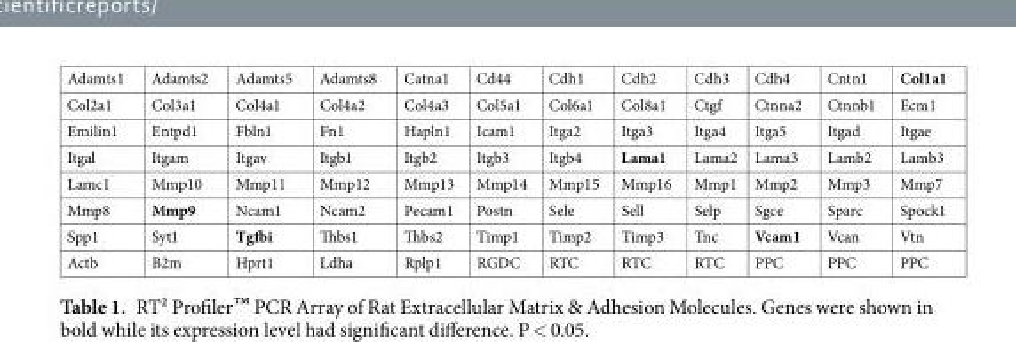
<table><tbody><tr><td>Adamts1</td><td>Adamts2</td><td>Adamts5</td><td>Adamts8</td><td>Catna1</td><td>Cd44</td><td>Cdh1</td><td>Cdh2</td><td>Cdh3</td><td>Cdh4</td><td>Cntn1</td><td>Col1a1</td></tr><tr><td>Col2a1</td><td>Col3a1</td><td>Col4a1</td><td>Col4a2</td><td>Col4a3</td><td>Col5a1</td><td>Col6a1</td><td>Col8a1</td><td>Ctgf</td><td>Ctnna2</td><td>Ctnnb1</td><td>Ecm1</td></tr><tr><td>Emilin1</td><td>Entpd1</td><td>Fbln1</td><td>Fn1</td><td>Hapln1</td><td>Icam1</td><td>Itga2</td><td>Itga3</td><td>Itga4</td><td>Itga5</td><td>Itgad</td><td>Itgae</td></tr><tr><td>Itgal</td><td>Itgam</td><td>Itgav</td><td>Itgb1</td><td>Itgb2</td><td>Itgb3</td><td>Itgb4</td><td>Lama1</td><td>Lama2</td><td>Lama3</td><td>Lamb2</td><td>Lamb3</td></tr><tr><td>Lamc1</td><td>Mmp10</td><td>Mmp11</td><td>Mmp12</td><td>Mmp13</td><td>Mmp14</td><td>Mmp15</td><td>Mmp16</td><td>Mmp1</td><td>Mmp2</td><td>Mmp3</td><td>Mmp7</td></tr><tr><td>Mmp8</td><td>Mmp9</td><td>Ncam1</td><td>Ncam2</td><td>Pecam1</td><td>Postn</td><td>Sele</td><td>Sell</td><td>Selp</td><td>Sgce</td><td>Sparc</td><td>Spock1</td></tr><tr><td>Spp1</td><td>Syt1</td><td>Tgfbi</td><td>Thbs1</td><td>Thbs2</td><td>Timp1</td><td>Timp2</td><td>Timp3</td><td>Tnc</td><td>Vcam1</td><td>Vcan</td><td>Vtn</td></tr><tr><td>Actb</td><td>B2m</td><td>Hprt1</td><td>Ldha</td><td>Rplp1</td><td>RGDC</td><td>RTC</td><td>RTC</td><td>RTC</td><td>PPC</td><td>PPC</td><td>PPC</td></tr></tbody></table>